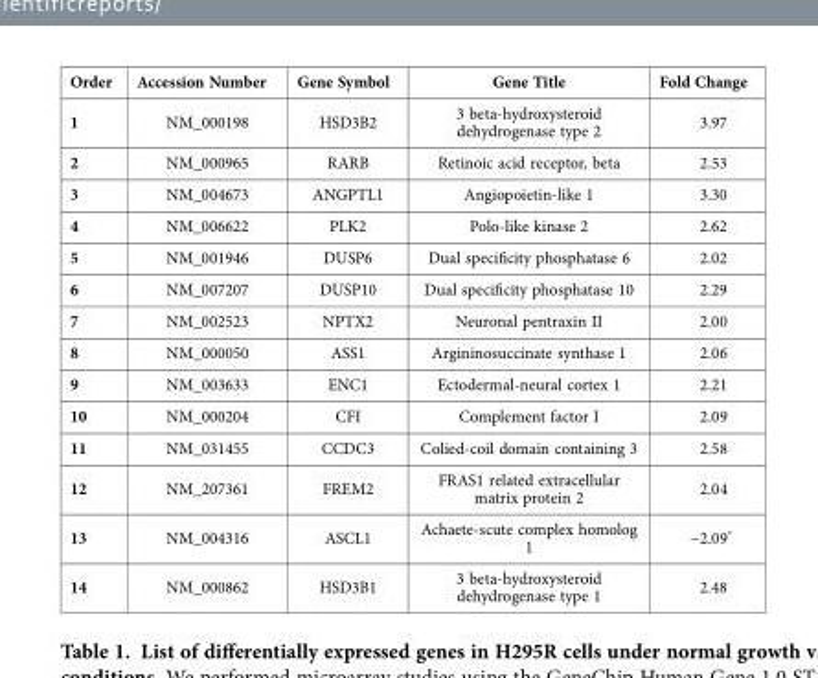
<table><tbody><tr><td>Order</td><td>Accession Number</td><td>Gene Symbol</td><td>Gene Title</td><td>Fold Change</td></tr><tr><td>1</td><td>NM_000198</td><td>HSD3B2</td><td>3 beta-hydroxysteroid dehydrogenase type 2</td><td>3.97</td></tr><tr><td>2</td><td>NM_000965</td><td>RARB</td><td>Retinoic acid receptor, beta</td><td>2.53</td></tr><tr><td>3</td><td>NM_004673</td><td>ANGPTL1</td><td>Angiopoietin-like 1</td><td>3.30</td></tr><tr><td>4</td><td>NM_006622</td><td>PLK2</td><td>Polo-like kinase 2</td><td>2.62</td></tr><tr><td>5</td><td>NM_001946</td><td>DUSP6</td><td>Dual specificity phosphatase 6</td><td>2.02</td></tr><tr><td>6</td><td>NM_007207</td><td>DUSP10</td><td>Dual specificity phosphatase 10</td><td>2.29</td></tr><tr><td>7</td><td>NM_002523</td><td>NPTX2</td><td>Neuronal pentraxin II</td><td>2.00</td></tr><tr><td>8</td><td>NM_000050</td><td>ASS1</td><td>Argininosuccinate synthase 1</td><td>2.06</td></tr><tr><td>9</td><td>NM_003633</td><td>ENC1</td><td>Ectodermal-neural cortex 1</td><td>2.21</td></tr><tr><td>10</td><td>NM_000204</td><td>CFI</td><td>Complement factor I</td><td>2.09</td></tr><tr><td>11</td><td>NM_031455</td><td>CCDC3</td><td>Colied-coil domain containing 3</td><td>2.58</td></tr><tr><td>12</td><td>NM_207361</td><td>FREM2</td><td>FRAS1 related extracellular matrix protein 2</td><td>2.04</td></tr><tr><td>13</td><td>NM_004316</td><td>ASCL1</td><td>Achaete-scute complex homolog 1</td><td>−2.09*</td></tr><tr><td>14</td><td>NM_000862</td><td>HSD3B1</td><td>3 beta-hydroxysteroid dehydrogenase type 1</td><td>2.48</td></tr></tbody></table>